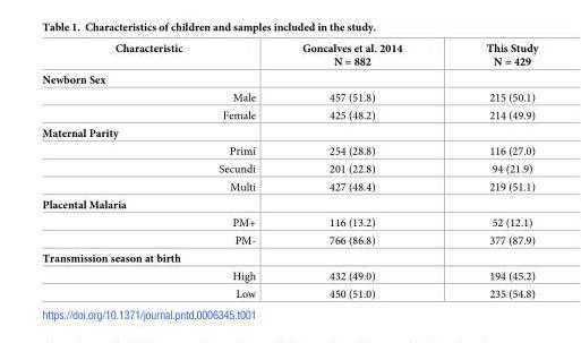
<table><thead><tr><td>Characteristic</td><td>Goncalves et al. 2014 N = 882</td><td>This Study N = 429</td></tr></thead><tbody><tr><td colspan="3">Newborn Sex</td></tr><tr><td>Male</td><td>457 (51.8)</td><td>215 (50.1)</td></tr><tr><td>Female</td><td>425 (48.2)</td><td>214 (49.9)</td></tr><tr><td colspan="3">Maternal Parity</td></tr><tr><td>Primi</td><td>254 (28.8)</td><td>116 (27.0)</td></tr><tr><td>Secundi</td><td>201 (22.8)</td><td>94 (21.9)</td></tr><tr><td>Multi</td><td>427 (48.4)</td><td>219 (51.1)</td></tr><tr><td colspan="3">Placental Malaria</td></tr><tr><td>PM+</td><td>116 (13.2)</td><td>52 (12.1)</td></tr><tr><td>PM-</td><td>766 (86.8)</td><td>377 (87.9)</td></tr><tr><td colspan="3">Transmission season at birth</td></tr><tr><td>High</td><td>432 (49.0)</td><td>194 (45.2)</td></tr><tr><td>Low</td><td>450 (51.0)</td><td>235 (54.8)</td></tr></tbody></table>